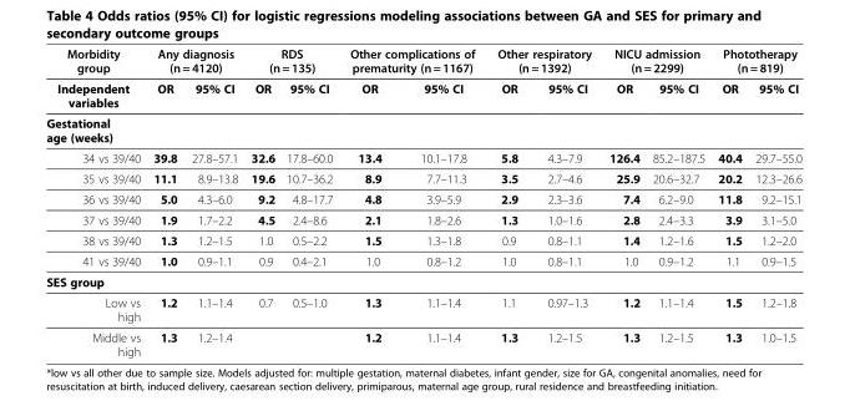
<table><thead><tr><td rowspan="2">Morbidity group Independent variables</td><td colspan="2">Any diagnosis (n = 4120)</td><td colspan="2">RDS (n = 135)</td><td colspan="2">Other complications of prematurity (n = 1167)</td><td colspan="2">Other respiratory (n = 1392)</td><td colspan="2">NICU admission (n = 2299)</td><td colspan="2">Phototherapy (n = 819)</td></tr><tr><td>OR</td><td>95% CI</td><td>OR</td><td>95% CI</td><td>OR</td><td>95% CI</td><td>OR</td><td>95% CI</td><td>OR</td><td>95% CI</td><td>OR</td><td>95% CI</td></tr></thead><tbody><tr><td colspan="13">Gestational age (weeks)</td></tr><tr><td>34 vs 39/40</td><td>39.8</td><td>27.8–57.1</td><td>32.6</td><td>17.8–60.0</td><td>13.4</td><td>10.1–17.8</td><td>5.8</td><td>4.3–7.9</td><td>126.4</td><td>85.2–187.5</td><td>40.4</td><td>29.7–55.0</td></tr><tr><td>35 vs 39/40</td><td>11.1</td><td>8.9–13.8</td><td>19.6</td><td>10.7–36.2</td><td>8.9</td><td>7.7–11.3</td><td>3.5</td><td>2.7–4.6</td><td>25.9</td><td>20.6–32.7</td><td>20.2</td><td>12.3–26.6</td></tr><tr><td>36 vs 39/40</td><td>5.0</td><td>4.3–6.0</td><td>9.2</td><td>4.8–17.7</td><td>4.8</td><td>3.9–5.9</td><td>2.9</td><td>2.3–3.6</td><td>7.4</td><td>6.2–9.0</td><td>11.8</td><td>9.2–15.1</td></tr><tr><td>37 vs 39/40</td><td>1.9</td><td>1.7–2.2</td><td>4.5</td><td>2.4–8.6</td><td>2.1</td><td>1.8–2.6</td><td>1.3</td><td>1.0–1.6</td><td>2.8</td><td>2.4–3.3</td><td>3.9</td><td>3.1–5.0</td></tr><tr><td>38 vs 39/40</td><td>1.3</td><td>1.2–1.5</td><td>1.0</td><td>0.5–2.2</td><td>1.5</td><td>1.3–1.8</td><td>0.9</td><td>0.8–1.1</td><td>1.4</td><td>1.2–1.6</td><td>1.5</td><td>1.2–2.0</td></tr><tr><td>41 vs 39/40</td><td>1.0</td><td>0.9–1.1</td><td>0.9</td><td>0.4–2.1</td><td>1.0</td><td>0.8–1.2</td><td>1.0</td><td>0.8–1.1</td><td>1.0</td><td>0.9–1.2</td><td>1.1</td><td>0.9–1.5</td></tr><tr><td colspan="13">SES group</td></tr><tr><td>Low vs high</td><td>1.2</td><td>1.1–1.4</td><td>0.7</td><td>0.5–1.0</td><td>1.3</td><td>1.1–1.4</td><td>1.1</td><td>0.97–1.3</td><td>1.2</td><td>1.1–1.4</td><td>1.5</td><td>1.2–1.8</td></tr><tr><td>Middle vs high</td><td>1.3</td><td>1.2–1.4</td><td></td><td></td><td>1.2</td><td>1.1–1.4</td><td>1.3</td><td>1.2–1.5</td><td>1.3</td><td>1.2–1.5</td><td>1.3</td><td>1.0–1.5</td></tr></tbody></table>